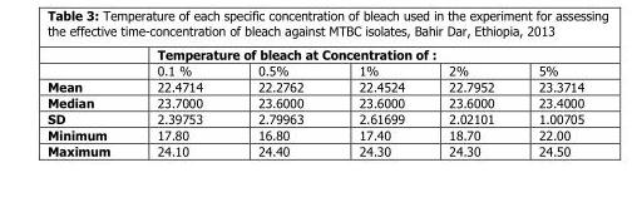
<table><thead><tr><td rowspan="2"></td><td colspan="5">Temperature of bleach at Concentration of :</td></tr><tr><td>0.1 %</td><td>0.5%</td><td>1%</td><td>2%</td><td>5%</td></tr></thead><tbody><tr><td>Mean</td><td>22.4714</td><td>22.2762</td><td>22.4524</td><td>22.7952</td><td>23.3714</td></tr><tr><td>Median</td><td>23.7000</td><td>23.6000</td><td>23.6000</td><td>23.6000</td><td>23.4000</td></tr><tr><td>SD</td><td>2.39753</td><td>2.79963</td><td>2.61699</td><td>2.02101</td><td>1.00705</td></tr><tr><td>Minimum</td><td>17.80</td><td>16.80</td><td>17.40</td><td>18.70</td><td>22.00</td></tr><tr><td>Maximum</td><td>24.10</td><td>24.40</td><td>24.30</td><td>24.30</td><td>24.50</td></tr></tbody></table>